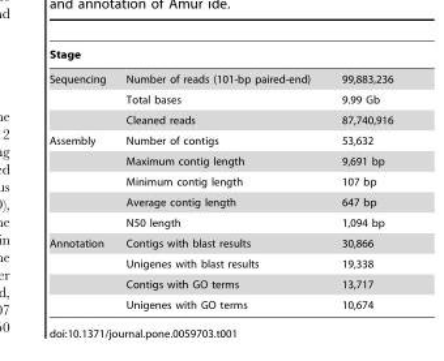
<table><thead><tr><td>Stage</td><td></td><td></td></tr></thead><tbody><tr><td rowspan="3">Sequencing</td><td>Number of reads (101-bp paired-end)</td><td>99,883,236</td></tr><tr><td>Total bases</td><td>9.99 Gb</td></tr><tr><td>Cleaned reads</td><td>87,740,916</td></tr><tr><td rowspan="5">Assembly</td><td>Number of contigs</td><td>53,632</td></tr><tr><td>Maximum contig length</td><td>9,691 bp</td></tr><tr><td>Minimum contig length</td><td>107 bp</td></tr><tr><td>Average contig length</td><td>647 bp</td></tr><tr><td>N50 length</td><td>1,094 bp</td></tr><tr><td rowspan="4">Annotation</td><td>Contigs with blast results</td><td>30,866</td></tr><tr><td>Unigenes with blast results</td><td>19,338</td></tr><tr><td>Contigs with GO terms</td><td>13,717</td></tr><tr><td>Unigenes with GO terms</td><td>10,674</td></tr></tbody></table>